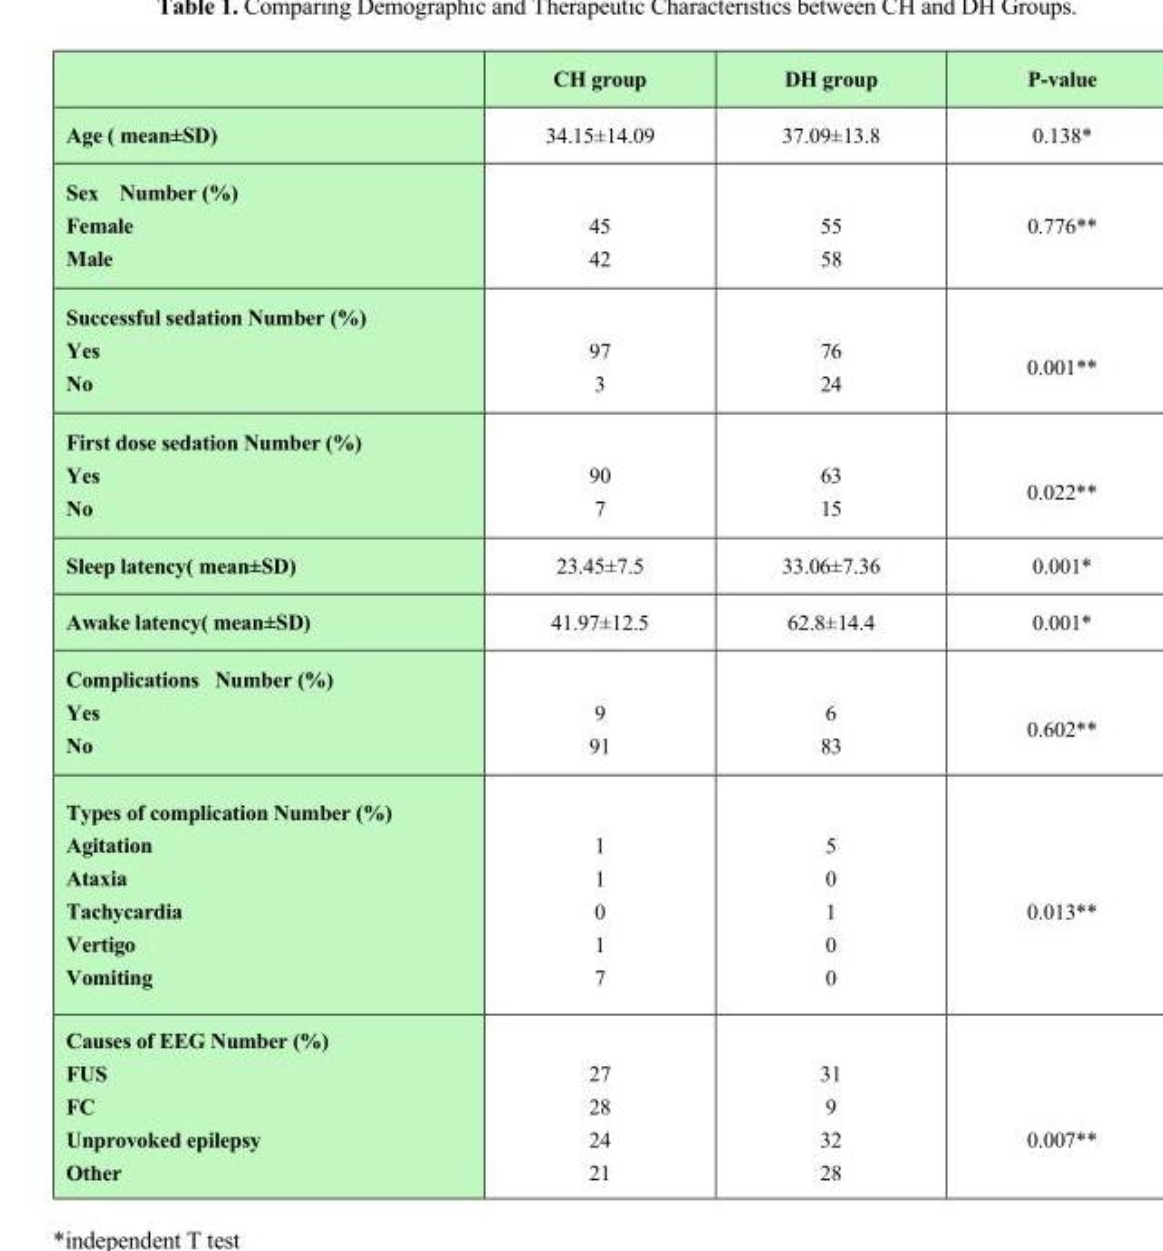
<table><thead><tr><td></td><td>CH group</td><td>DH group</td><td>P-value</td></tr></thead><tbody><tr><td>Age ( mean±SD)</td><td>34.15±14.09</td><td>37.09±13.8</td><td>0.138*</td></tr><tr><td colspan="4">Sex Number (%)</td></tr><tr><td>Female Male</td><td>45 42</td><td>55 58</td><td>0.776**</td></tr><tr><td colspan="4">Successful sedation Number (%)</td></tr><tr><td>Yes No</td><td>97 3</td><td>76 24</td><td>0.001**</td></tr><tr><td colspan="4">First dose sedation Number (%)</td></tr><tr><td>Yes No</td><td>90 7</td><td>63 15</td><td>0.022**</td></tr><tr><td>Sleep latency( mean±SD)</td><td>23.45±7.5</td><td>33.06±7.36</td><td>0.001*</td></tr><tr><td>Awake latency( mean±SD)</td><td>41.97±12.5</td><td>62.8±14.4</td><td>0.001*</td></tr><tr><td colspan="4">Complications Number (%)</td></tr><tr><td>Yes No</td><td>9 91</td><td>6 83</td><td>0.602**</td></tr><tr><td colspan="4">Types of complication Number (%)</td></tr><tr><td>Agitation Ataxia Tachycardia Vertigo Vomiting</td><td>1 1 0 1 7</td><td>5 0 1 0 0</td><td>0.013**</td></tr><tr><td colspan="4">Causes of EEG Number (%)</td></tr><tr><td>FUS FC Unprovoked epilepsy Other</td><td>27 28 24 21</td><td>31 9 32 28</td><td>0.007**</td></tr></tbody></table>